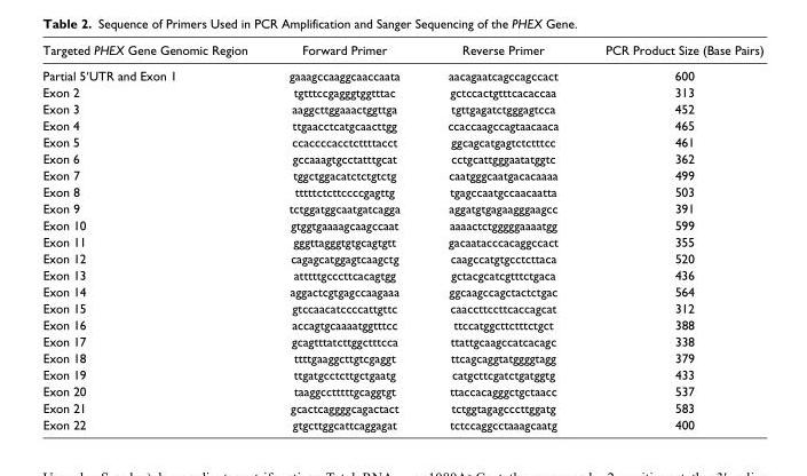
<table><thead><tr><td>Targeted PHEX Gene Genomic Region</td><td>Forward Primer</td><td>Reverse Primer</td><td>PCR Product Size (Base Pairs)</td></tr></thead><tbody><tr><td>Partial 5′UTR and Exon 1</td><td>gaaagccaaggcaaccaata</td><td>aacagaatcagccagccact</td><td>600</td></tr><tr><td>Exon 2</td><td>tgtttccgagggtggtttac</td><td>gctccactgtttcacaccaa</td><td>313</td></tr><tr><td>Exon 3</td><td>aaggcttggaaactggttga</td><td>tgttgagatctgggagtcca</td><td>452</td></tr><tr><td>Exon 4</td><td>ttgaacctcatgcaacttgg</td><td>ccaccaagccagtaacaaca</td><td>465</td></tr><tr><td>Exon 5</td><td>ccaccccacctcttttacct</td><td>ggcagcatgagtctctttcc</td><td>461</td></tr><tr><td>Exon 6</td><td>gccaaagtgcctatttgcat</td><td>cctgcattgggaatatggtc</td><td>362</td></tr><tr><td>Exon 7</td><td>tggctggacatctctgtctg</td><td>caatgggcaatgacacaaaa</td><td>499</td></tr><tr><td>Exon 8</td><td>tttttctcttccccgagttg</td><td>tgagccaatgccaacaatta</td><td>503</td></tr><tr><td>Exon 9</td><td>tctggatggcaatgatcagga</td><td>aggatgtgagaagggaagcc</td><td>391</td></tr><tr><td>Exon 10</td><td>gtggtgaaaagcaagccaat</td><td>aaaactctgggggaaaatgg</td><td>599</td></tr><tr><td>Exon 11</td><td>gggttagggtgtgcagtgtt</td><td>gacaatacccacaggccact</td><td>355</td></tr><tr><td>Exon 12</td><td>cagagcatggagtcaagctg</td><td>caagccatgtgcctcttaca</td><td>520</td></tr><tr><td>Exon 13</td><td>atttttgcccttcacagtgg</td><td>gctacgcatcgtttctgaca</td><td>436</td></tr><tr><td>Exon 14</td><td>aggactcgtgagccaagaaa</td><td>ggcaagccagctactctgac</td><td>564</td></tr><tr><td>Exon 15</td><td>gtccaacatccccattgttc</td><td>caaccttccttcaccagcat</td><td>312</td></tr><tr><td>Exon 16</td><td>accagtgcaaaatggtttcc</td><td>ttccatggcttctttctgct</td><td>388</td></tr><tr><td>Exon 17</td><td>gcagtttatcttggctttcca</td><td>ttattgcaagccatcacagc</td><td>338</td></tr><tr><td>Exon 18</td><td>ttttgaaggcttgtcgaggt</td><td>ttcagcaggtatggggtagg</td><td>379</td></tr><tr><td>Exon 19</td><td>ttgatgcctcttgctgaatg</td><td>catgcttcgatctgatggtg</td><td>433</td></tr><tr><td>Exon 20</td><td>taaggcctttttgcaggtgt</td><td>ttaccacagggctgctaacc</td><td>537</td></tr><tr><td>Exon 21</td><td>gcactcaggggcagactact</td><td>tctggtagagcccttggatg</td><td>583</td></tr><tr><td>Exon 22</td><td>gtgcttggcattcaggagat</td><td>tctccaggcctaaagcaatg</td><td>400</td></tr></tbody></table>